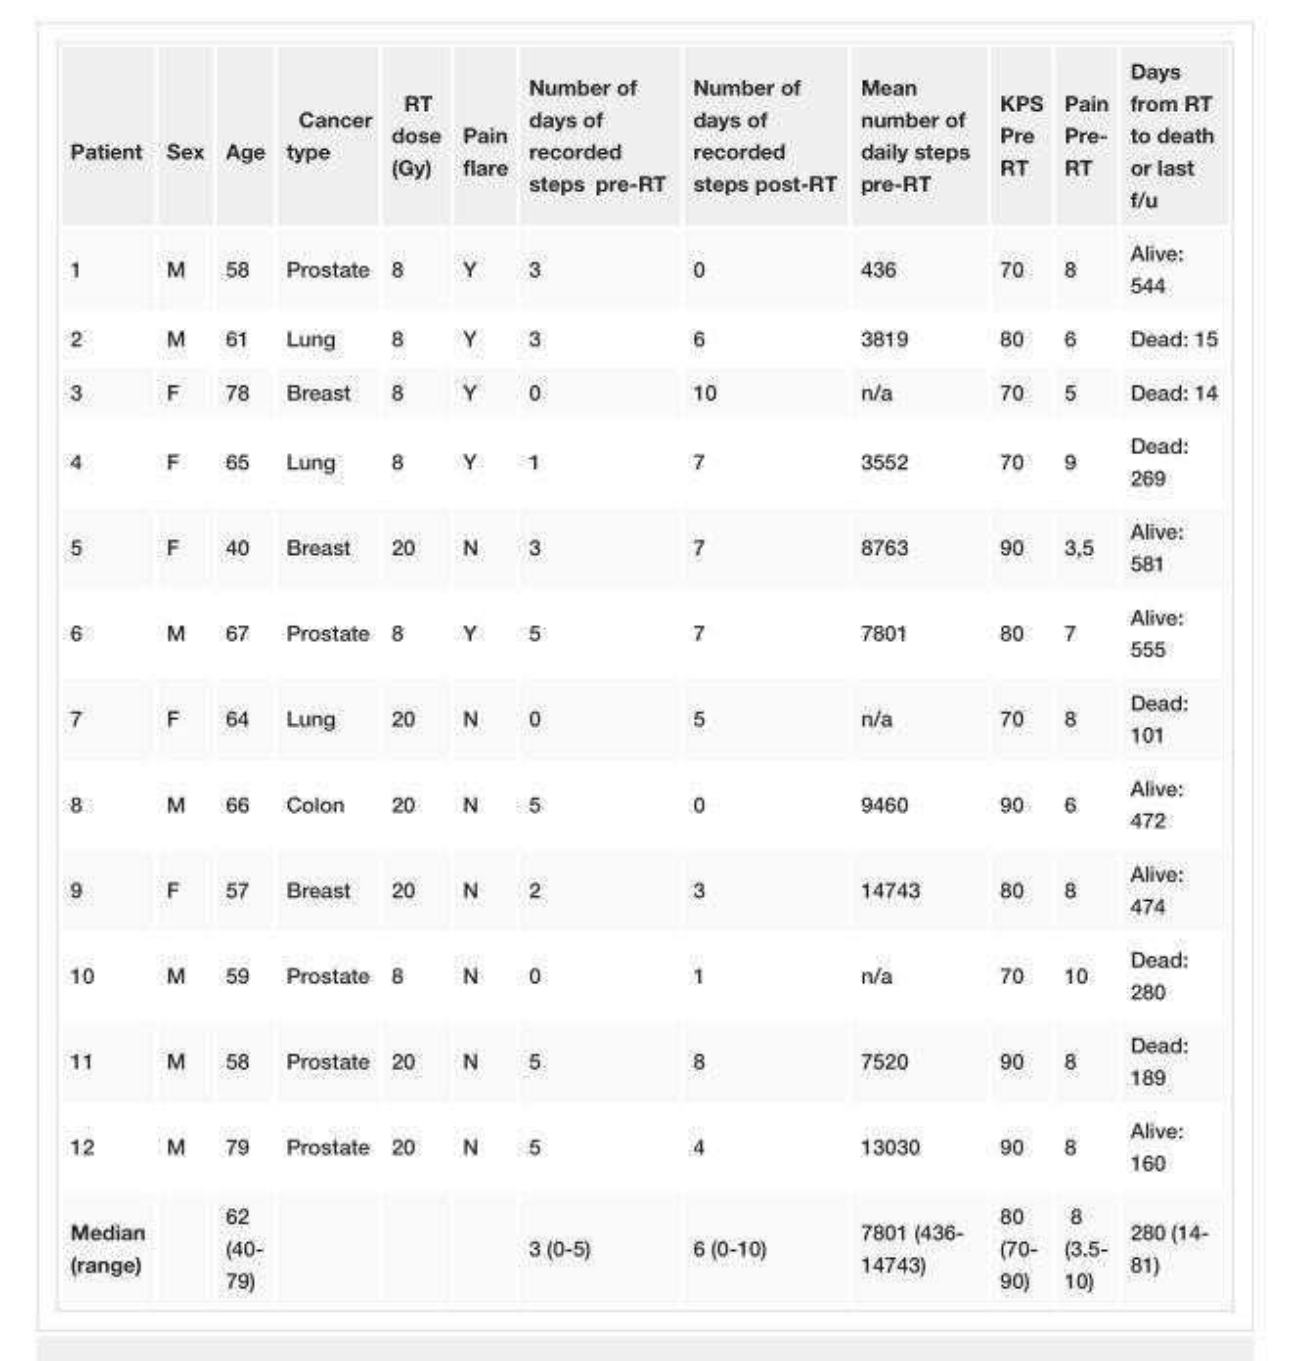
<table><tbody><tr><td>Patient</td><td>Sex</td><td>Age</td><td>Cancer type</td><td>RT dose (Gy)</td><td>Pain flare</td><td>Number of days of recorded steps pre-RT</td><td>Number of days of recorded steps post-RT</td><td>Mean number of daily steps pre-RT</td><td>KPS Pre RT</td><td>Pain Pre- RT</td><td>Days from RT to death or last f/u</td></tr><tr><td>1</td><td>M</td><td>58</td><td>Prostate</td><td>8</td><td>Y</td><td>3</td><td>0</td><td>436</td><td>70</td><td>8</td><td>Alive: 544</td></tr><tr><td>2</td><td>M</td><td>61</td><td>Lung</td><td>8</td><td>Y</td><td>3</td><td>6</td><td>3819</td><td>80</td><td>6</td><td>Dead: 15</td></tr><tr><td>3</td><td>F</td><td>78</td><td>Breast</td><td>8</td><td>Y</td><td>0</td><td>10</td><td>n/a</td><td>70</td><td>5</td><td>Dead: 14</td></tr><tr><td>4</td><td>F</td><td>65</td><td>Lung</td><td>8</td><td>Y</td><td>1</td><td>7</td><td>3552</td><td>70</td><td>9</td><td>Dead: 269</td></tr><tr><td>5</td><td>F</td><td>40</td><td>Breast</td><td>20</td><td>N</td><td>3</td><td>7</td><td>8763</td><td>90</td><td>3,5</td><td>Alive: 581</td></tr><tr><td>6</td><td>M</td><td>67</td><td>Prostate</td><td>8</td><td>Y</td><td>5</td><td>7</td><td>7801</td><td>80</td><td>7</td><td>Alive: 555</td></tr><tr><td>7</td><td>F</td><td>64</td><td>Lung</td><td>20</td><td>N</td><td>0</td><td>5</td><td>n/a</td><td>70</td><td>8</td><td>Dead: 101</td></tr><tr><td>8</td><td>M</td><td>66</td><td>Colon</td><td>20</td><td>N</td><td>5</td><td>0</td><td>9460</td><td>90</td><td>6</td><td>Alive: 472</td></tr><tr><td>9</td><td>F</td><td>57</td><td>Breast</td><td>20</td><td>N</td><td>2</td><td>3</td><td>14743</td><td>80</td><td>8</td><td>Alive: 474</td></tr><tr><td>10</td><td>M</td><td>59</td><td>Prostate</td><td>8</td><td>N</td><td>0</td><td>1</td><td>n/a</td><td>70</td><td>10</td><td>Dead: 280</td></tr><tr><td>11</td><td>M</td><td>58</td><td>Prostate</td><td>20</td><td>N</td><td>5</td><td>8</td><td>7520</td><td>90</td><td>8</td><td>Dead: 189</td></tr><tr><td>12</td><td>M</td><td>79</td><td>Prostate</td><td>20</td><td>N</td><td>5</td><td>4</td><td>13030</td><td>90</td><td>8</td><td>Alive: 160</td></tr><tr><td>Median (range)</td><td></td><td>62 (40- 79)</td><td></td><td></td><td></td><td>3 (0-5)</td><td>6 (0-10)</td><td>7801 (436- 14743)</td><td>80 (70- 90)</td><td>8 (3.5- 10)</td><td>280 (14- 81)</td></tr></tbody></table>